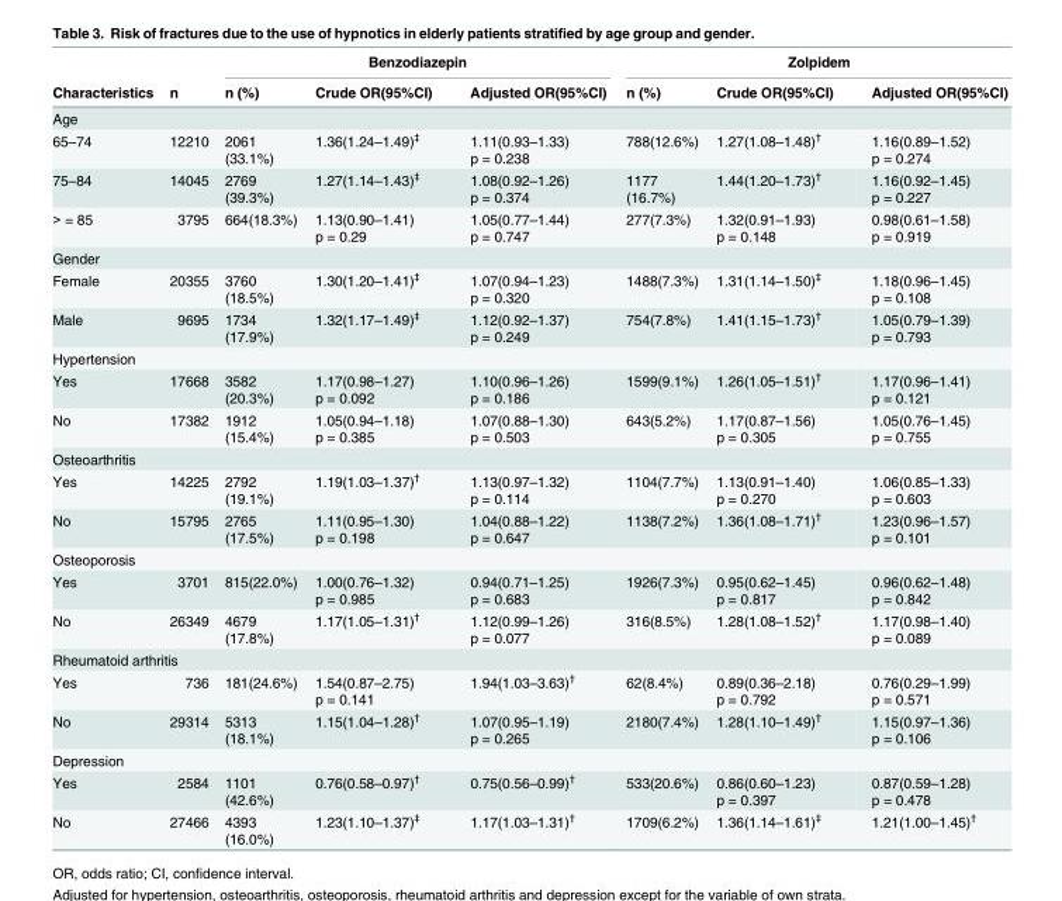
<table><thead><tr><td rowspan="2">Characteristics</td><td rowspan="2">n</td><td colspan="3">Benzodiazepin</td><td colspan="3">Zolpidem</td></tr><tr><td>n (%)</td><td>Crude OR(95%CI)</td><td>Adjusted OR(95%CI)</td><td>n (%)</td><td>Crude OR(95%CI)</td><td>Adjusted OR(95%CI)</td></tr></thead><tbody><tr><td colspan="8">Age</td></tr><tr><td>65–74</td><td>12210</td><td>2061 (33.1%)</td><td>1.36(1.24–1.49)<sup>‡</sup></td><td>1.11(0.93–1.33) p = 0.238</td><td>788(12.6%)</td><td>1.27(1.08–1.48)<sup>†</sup></td><td>1.16(0.89–1.52) p = 0.274</td></tr><tr><td>75–84</td><td>14045</td><td>2769 (39.3%)</td><td>1.27(1.14–1.43)<sup>‡</sup></td><td>1.08(0.92–1.26) p = 0.374</td><td>1177 (16.7%)</td><td>1.44(1.20–1.73)<sup>†</sup></td><td>1.16(0.92–1.45) p = 0.227</td></tr><tr><td>&gt; = 85</td><td>3795</td><td>664(18.3%)</td><td>1.13(0.90–1.41) p = 0.29</td><td>1.05(0.77–1.44) p = 0.747</td><td>277(7.3%)</td><td>1.32(0.91–1.93) p = 0.148</td><td>0.98(0.61–1.58) p = 0.919</td></tr><tr><td colspan="8">Gender</td></tr><tr><td>Female</td><td>20355</td><td>3760 (18.5%)</td><td>1.30(1.20–1.41)<sup>‡</sup></td><td>1.07(0.94–1.23) p = 0.320</td><td>1488(7.3%)</td><td>1.31(1.14–1.50)<sup>‡</sup></td><td>1.18(0.96–1.45) p = 0.108</td></tr><tr><td>Male</td><td>9695</td><td>1734 (17.9%)</td><td>1.32(1.17–1.49)<sup>‡</sup></td><td>1.12(0.92–1.37) p = 0.249</td><td>754(7.8%)</td><td>1.41(1.15–1.73)<sup>†</sup></td><td>1.05(0.79–1.39) p = 0.793</td></tr><tr><td colspan="8">Hypertension</td></tr><tr><td>Yes</td><td>17668</td><td>3582 (20.3%)</td><td>1.17(0.98–1.27) p = 0.092</td><td>1.10(0.96–1.26) p = 0.186</td><td>1599(9.1%)</td><td>1.26(1.05–1.51)<sup>†</sup></td><td>1.17(0.96–1.41) p = 0.121</td></tr><tr><td>No</td><td>17382</td><td>1912 (15.4%)</td><td>1.05(0.94–1.18) p = 0.385</td><td>1.07(0.88–1.30) p = 0.503</td><td>643(5.2%)</td><td>1.17(0.87–1.56) p = 0.305</td><td>1.05(0.76–1.45) p = 0.755</td></tr><tr><td colspan="8">Osteoarthritis</td></tr><tr><td>Yes</td><td>14225</td><td>2792 (19.1%)</td><td>1.19(1.03–1.37)<sup>†</sup></td><td>1.13(0.97–1.32) p = 0.114</td><td>1104(7.7%)</td><td>1.13(0.91–1.40) p = 0.270</td><td>1.06(0.85–1.33) p = 0.603</td></tr><tr><td>No</td><td>15795</td><td>2765 (17.5%)</td><td>1.11(0.95–1.30) p = 0.198</td><td>1.04(0.88–1.22) p = 0.647</td><td>1138(7.2%)</td><td>1.36(1.08–1.71)<sup>†</sup></td><td>1.23(0.96–1.57) p = 0.101</td></tr><tr><td colspan="8">Osteoporosis</td></tr><tr><td>Yes</td><td>3701</td><td>815(22.0%)</td><td>1.00(0.76–1.32) p = 0.985</td><td>0.94(0.71–1.25) p = 0.683</td><td>1926(7.3%)</td><td>0.95(0.62–1.45) p = 0.817</td><td>0.96(0.62–1.48) p = 0.842</td></tr><tr><td>No</td><td>26349</td><td>4679 (17.8%)</td><td>1.17(1.05–1.31)<sup>†</sup></td><td>1.12(0.99–1.26) p = 0.077</td><td>316(8.5%)</td><td>1.28(1.08–1.52)<sup>†</sup></td><td>1.17(0.98–1.40) p = 0.089</td></tr><tr><td colspan="8">Rheumatoid arthritis</td></tr><tr><td>Yes</td><td>736</td><td>181(24.6%)</td><td>1.54(0.87–2.75) p = 0.141</td><td>1.94(1.03–3.63)<sup>†</sup></td><td>62(8.4%)</td><td>0.89(0.36–2.18) p = 0.792</td><td>0.76(0.29–1.99) p = 0.571</td></tr><tr><td>No</td><td>29314</td><td>5313 (18.1%)</td><td>1.15(1.04–1.28)<sup>†</sup></td><td>1.07(0.95–1.19) p = 0.265</td><td>2180(7.4%)</td><td>1.28(1.10–1.49)<sup>†</sup></td><td>1.15(0.97–1.36) p = 0.106</td></tr><tr><td colspan="8">Depression</td></tr><tr><td>Yes</td><td>2584</td><td>1101 (42.6%)</td><td>0.76(0.58–0.97)<sup>†</sup></td><td>0.75(0.56–0.99)<sup>†</sup></td><td>533(20.6%)</td><td>0.86(0.60–1.23) p = 0.397</td><td>0.87(0.59–1.28) p = 0.478</td></tr><tr><td>No</td><td>27466</td><td>4393 (16.0%)</td><td>1.23(1.10–1.37)<sup>‡</sup></td><td>1.17(1.03–1.31)<sup>†</sup></td><td>1709(6.2%)</td><td>1.36(1.14–1.61)<sup>‡</sup></td><td>1.21(1.00–1.45)<sup>†</sup></td></tr></tbody></table>